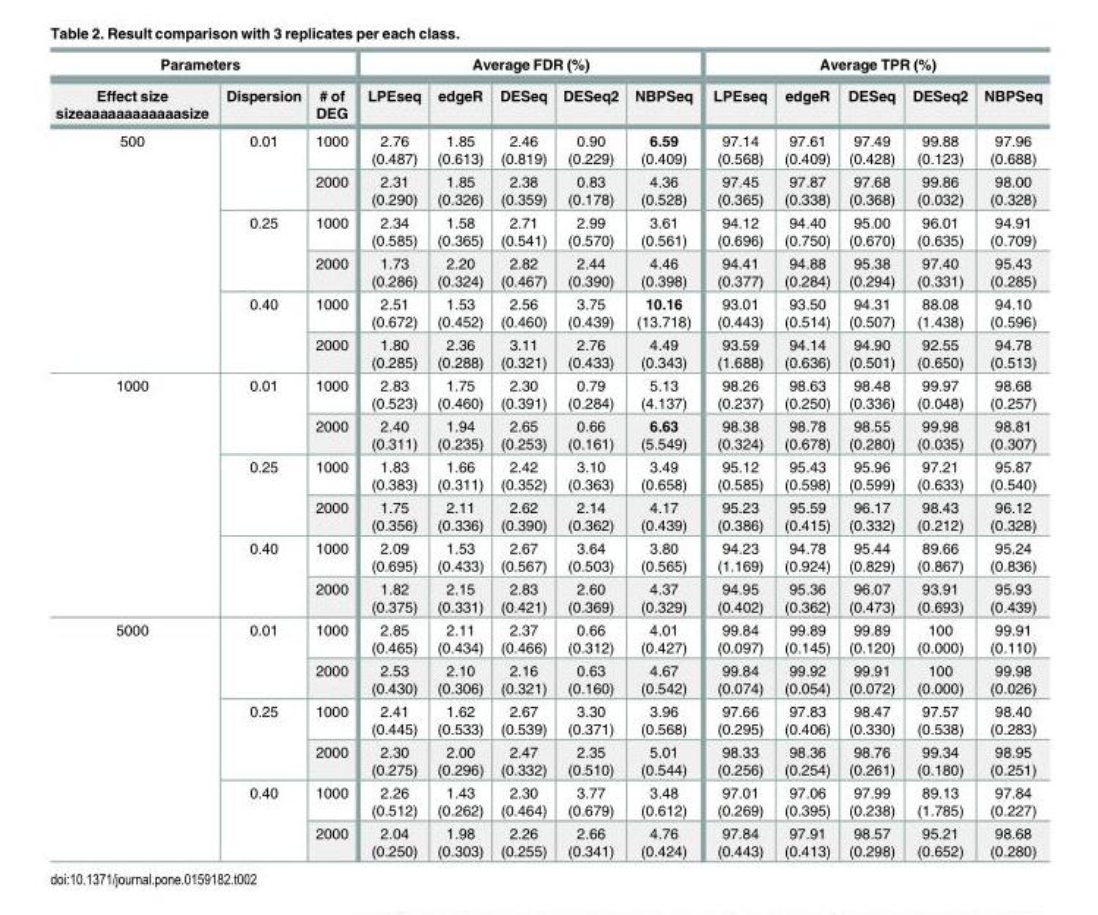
<table><thead><tr><td colspan="3">Parameters</td><td colspan="5">Average FDR (%)</td><td colspan="5">Average TPR (%)</td></tr><tr><td>Effect size sizeaaaaaaaaaaaasize</td><td>Dispersion</td><td># of DEG</td><td>LPEseq</td><td>edgeR</td><td>DESeq</td><td>DESeq2</td><td>NBPSeq</td><td>LPEseq</td><td>edgeR</td><td>DESeq</td><td>DESeq2</td><td>NBPSeq</td></tr></thead><tbody><tr><td rowspan="6">500</td><td rowspan="2">0.01</td><td>1000</td><td>2.76 (0.487)</td><td>1.85 (0.613)</td><td>2.46 (0.819)</td><td>0.90 (0.229)</td><td>6.59 (0.409)</td><td>97.14 (0.568)</td><td>97.61 (0.409)</td><td>97.49 (0.428)</td><td>99.88 (0.123)</td><td>97.96 (0.688)</td></tr><tr><td>2000</td><td>2.31 (0.290)</td><td>1.85 (0.326)</td><td>2.38 (0.359)</td><td>0.83 (0.178)</td><td>4.36 (0.528)</td><td>97.45 (0.365)</td><td>97.87 (0.338)</td><td>97.68 (0.368)</td><td>99.86 (0.032)</td><td>98.00 (0.328)</td></tr><tr><td rowspan="2">0.25</td><td>1000</td><td>2.34 (0.585)</td><td>1.58 (0.365)</td><td>2.71 (0.541)</td><td>2.99 (0.570)</td><td>3.61 (0.561)</td><td>94.12 (0.696)</td><td>94.40 (0.750)</td><td>95.00 (0.670)</td><td>96.01 (0.635)</td><td>94.91 (0.709)</td></tr><tr><td>2000</td><td>1.73 (0.286)</td><td>2.20 (0.324)</td><td>2.82 (0.467)</td><td>2.44 (0.390)</td><td>4.46 (0.398)</td><td>94.41 (0.377)</td><td>94.88 (0.284)</td><td>95.38 (0.294)</td><td>97.40 (0.331)</td><td>95.43 (0.285)</td></tr><tr><td rowspan="2">0.40</td><td>1000</td><td>2.51 (0.672)</td><td>1.53 (0.452)</td><td>2.56 (0.460)</td><td>3.75 (0.439)</td><td>10.16 (13.718)</td><td>93.01 (0.443)</td><td>93.50 (0.514)</td><td>94.31 (0.507)</td><td>88.08 (1.438)</td><td>94.10 (0.596)</td></tr><tr><td>2000</td><td>1.80 (0.285)</td><td>2.36 (0.288)</td><td>3.11 (0.321)</td><td>2.76 (0.433)</td><td>4.49 (0.343)</td><td>93.59 (1.688)</td><td>94.14 (0.636)</td><td>94.90 (0.501)</td><td>92.55 (0.650)</td><td>94.78 (0.513)</td></tr><tr><td rowspan="6">1000</td><td rowspan="2">0.01</td><td>1000</td><td>2.83 (0.523)</td><td>1.75 (0.460)</td><td>2.30 (0.391)</td><td>0.79 (0.284)</td><td>5.13 (4.137)</td><td>98.26 (0.237)</td><td>98.63 (0.250)</td><td>98.48 (0.336)</td><td>99.97 (0.048)</td><td>98.68 (0.257)</td></tr><tr><td>2000</td><td>2.40 (0.311)</td><td>1.94 (0.235)</td><td>2.65 (0.253)</td><td>0.66 (0.161)</td><td>6.63 (5.549)</td><td>98.38 (0.324)</td><td>98.78 (0.678)</td><td>98.55 (0.280)</td><td>99.98 (0.035)</td><td>98.81 (0.307)</td></tr><tr><td rowspan="2">0.25</td><td>1000</td><td>1.83 (0.383)</td><td>1.66 (0.311)</td><td>2.42 (0.352)</td><td>3.10 (0.363)</td><td>3.49 (0.658)</td><td>95.12 (0.585)</td><td>95.43 (0.598)</td><td>95.96 (0.599)</td><td>97.21 (0.633)</td><td>95.87 (0.540)</td></tr><tr><td>2000</td><td>1.75 (0.356)</td><td>2.11 (0.336)</td><td>2.62 (0.390)</td><td>2.14 (0.362)</td><td>4.17 (0.439)</td><td>95.23 (0.386)</td><td>95.59 (0.415)</td><td>96.17 (0.332)</td><td>98.43 (0.212)</td><td>96.12 (0.328)</td></tr><tr><td rowspan="2">0.40</td><td>1000</td><td>2.09 (0.695)</td><td>1.53 (0.433)</td><td>2.67 (0.567)</td><td>3.64 (0.503)</td><td>3.80 (0.565)</td><td>94.23 (1.169)</td><td>94.78 (0.924)</td><td>95.44 (0.829)</td><td>89.66 (0.867)</td><td>95.24 (0.836)</td></tr><tr><td>2000</td><td>1.82 (0.375)</td><td>2.15 (0.331)</td><td>2.83 (0.421)</td><td>2.60 (0.369)</td><td>4.37 (0.329)</td><td>94.95 (0.402)</td><td>95.36 (0.362)</td><td>96.07 (0.473)</td><td>93.91 (0.693)</td><td>95.93 (0.439)</td></tr><tr><td rowspan="6">5000</td><td rowspan="2">0.01</td><td>1000</td><td>2.85 (0.465)</td><td>2.11 (0.434)</td><td>2.37 (0.466)</td><td>0.66 (0.312)</td><td>4.01 (0.427)</td><td>99.84 (0.097)</td><td>99.89 (0.145)</td><td>99.89 (0.120)</td><td>100 (0.000)</td><td>99.91 (0.110)</td></tr><tr><td>2000</td><td>2.53 (0.430)</td><td>2.10 (0.306)</td><td>2.16 (0.321)</td><td>0.63 (0.160)</td><td>4.67 (0.542)</td><td>99.84 (0.074)</td><td>99.92 (0.054)</td><td>99.91 (0.072)</td><td>100 (0.000)</td><td>99.98 (0.026)</td></tr><tr><td rowspan="2">0.25</td><td>1000</td><td>2.41 (0.445)</td><td>1.62 (0.533)</td><td>2.67 (0.539)</td><td>3.30 (0.371)</td><td>3.96 (0.568)</td><td>97.66 (0.295)</td><td>97.83 (0.406)</td><td>98.47 (0.330)</td><td>97.57 (0.538)</td><td>98.40 (0.283)</td></tr><tr><td>2000</td><td>2.30 (0.275)</td><td>2.00 (0.296)</td><td>2.47 (0.332)</td><td>2.35 (0.510)</td><td>5.01 (0.544)</td><td>98.33 (0.256)</td><td>98.36 (0.254)</td><td>98.76 (0.261)</td><td>99.34 (0.180)</td><td>98.95 (0.251)</td></tr><tr><td rowspan="2">0.40</td><td>1000</td><td>2.26 (0.512)</td><td>1.43 (0.262)</td><td>2.30 (0.464)</td><td>3.77 (0.679)</td><td>3.48 (0.612)</td><td>97.01 (0.269)</td><td>97.06 (0.395)</td><td>97.99 (0.238)</td><td>89.13 (1.785)</td><td>97.84 (0.227)</td></tr><tr><td>2000</td><td>2.04 (0.250)</td><td>1.98 (0.303)</td><td>2.26 (0.255)</td><td>2.66 (0.341)</td><td>4.76 (0.424)</td><td>97.84 (0.443)</td><td>97.91 (0.413)</td><td>98.57 (0.298)</td><td>95.21 (0.652)</td><td>98.68 (0.280)</td></tr></tbody></table>